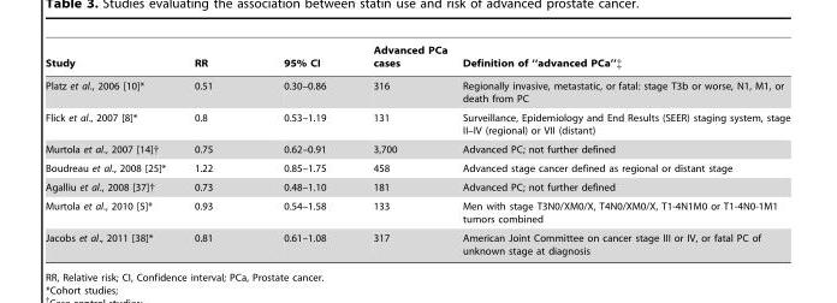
<table><thead><tr><td>Study</td><td>RR</td><td>95% CI</td><td>Advanced PCa cases</td><td>Definition of ‘‘advanced PCa’’{</td></tr></thead><tbody><tr><td>Platz et al., 2006 [10]*</td><td>0.51</td><td>0.30–0.86</td><td>316</td><td>Regionally invasive, metastatic, or fatal: stage T3b or worse, N1, M1, or death from PC</td></tr><tr><td>Flick et al., 2007 [8]*</td><td>0.8</td><td>0.53–1.19</td><td>131</td><td>Surveillance, Epidemiology and End Results (SEER) staging system, stage II–IV (regional) or VII (distant)</td></tr><tr><td>Murtola et al., 2007 [14]†</td><td>0.75</td><td>0.62–0.91</td><td>3,700</td><td>Advanced PC; not further defined</td></tr><tr><td>Boudreau et al., 2008 [25]*</td><td>1.22</td><td>0.85–1.75</td><td>458</td><td>Advanced stage cancer defined as regional or distant stage</td></tr><tr><td>Agalliu et al., 2008 [37]†</td><td>0.73</td><td>0.48–1.10</td><td>181</td><td>Advanced PC; not further defined</td></tr><tr><td>Murtola et al., 2010 [5]*</td><td>0.93</td><td>0.54–1.58</td><td>133</td><td>Men with stage T3N0/XM0/X, T4N0/XM0/X, T1-4N1M0 or T1-4N0-1M1 tumors combined</td></tr><tr><td>Jacobs et al., 2011 [38]*</td><td>0.81</td><td>0.61–1.08</td><td>317</td><td>American Joint Committee on cancer stage III or IV, or fatal PC of unknown stage at diagnosis</td></tr></tbody></table>